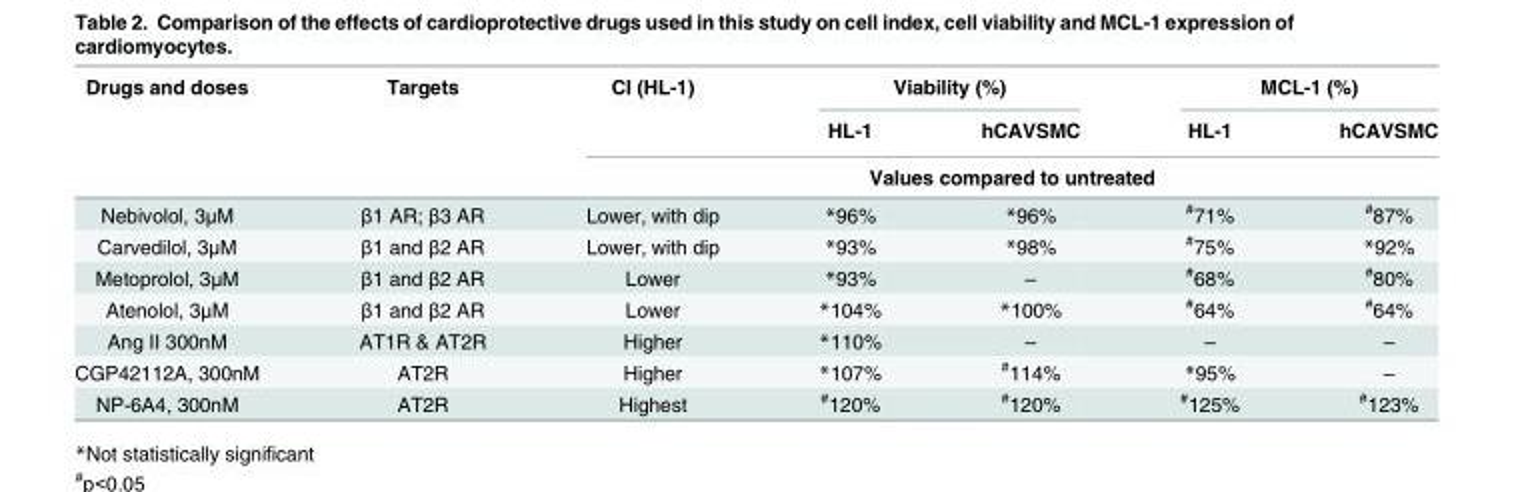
<table><thead><tr><td rowspan="3">Drugs and doses</td><td rowspan="3">Targets</td><td rowspan="2">CI (HL-1)</td><td colspan="2">Viability (%)</td><td colspan="2">MCL-1 (%)</td></tr><tr><td>HL-1</td><td>hCAVSMC</td><td>HL-1</td><td>hCAVSMC</td></tr><tr><td colspan="5">Values compared to untreated</td></tr></thead><tbody><tr><td>Nebivolol, 3μM</td><td>β1 AR; β3 AR</td><td>Lower, with dip</td><td>*96%</td><td>*96%</td><td><sup>#</sup>71%</td><td><sup>#</sup>87%</td></tr><tr><td>Carvedilol, 3μM</td><td>β1 and β2 AR</td><td>Lower, with dip</td><td>*93%</td><td>*98%</td><td><sup>#</sup>75%</td><td>*92%</td></tr><tr><td>Metoprolol, 3μM</td><td>β1 and β2 AR</td><td>Lower</td><td>*93%</td><td>–</td><td><sup>#</sup>68%</td><td><sup>#</sup>80%</td></tr><tr><td>Atenolol, 3μM</td><td>β1 and β2 AR</td><td>Lower</td><td>*104%</td><td>*100%</td><td><sup>#</sup>64%</td><td><sup>#</sup>64%</td></tr><tr><td>Ang II 300nM</td><td>AT1R &amp; AT2R</td><td>Higher</td><td>*110%</td><td>–</td><td>–</td><td>–</td></tr><tr><td>CGP42112A, 300nM</td><td>AT2R</td><td>Higher</td><td>*107%</td><td><sup>#</sup>114%</td><td>*95%</td><td>–</td></tr><tr><td>NP-6A4, 300nM</td><td>AT2R</td><td>Highest</td><td><sup>#</sup>120%</td><td><sup>#</sup>120%</td><td><sup>#</sup>125%</td><td><sup>#</sup>123%</td></tr></tbody></table>